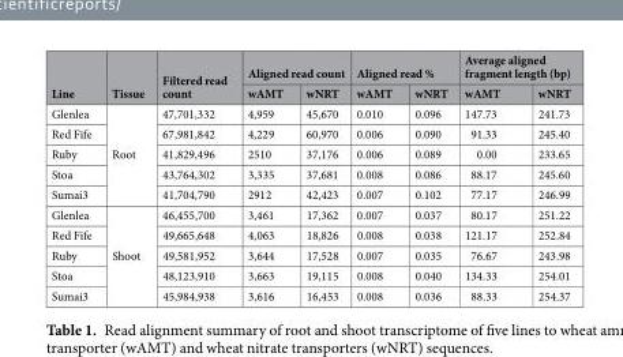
<table><thead><tr><td rowspan="2">Line</td><td rowspan="2">Tissue</td><td rowspan="2">Filtered read count</td><td colspan="2">Aligned read count</td><td colspan="2">Aligned read %</td><td colspan="2">Average aligned fragment length (bp)</td></tr><tr><td>wAMT</td><td>wNRT</td><td>wAMT</td><td>wNRT</td><td>wAMT</td><td>wNRT</td></tr></thead><tbody><tr><td>Glenlea</td><td rowspan="5">Root</td><td>47,701,332</td><td>4,959</td><td>45,670</td><td>0.010</td><td>0.096</td><td>147.73</td><td>241.73</td></tr><tr><td>Red Fife</td><td>67,981,842</td><td>4,229</td><td>60,970</td><td>0.006</td><td>0.090</td><td>91.33</td><td>245.40</td></tr><tr><td>Ruby</td><td>41,829,496</td><td>2510</td><td>37,176</td><td>0.006</td><td>0.089</td><td>0.00</td><td>233.65</td></tr><tr><td>Stoa</td><td>43,764,302</td><td>3,335</td><td>37,681</td><td>0.008</td><td>0.086</td><td>88.17</td><td>245.60</td></tr><tr><td>Sumai3</td><td>41,704,790</td><td>2912</td><td>42,423</td><td>0.007</td><td>0.102</td><td>77.17</td><td>246.99</td></tr><tr><td>Glenlea</td><td rowspan="5">Shoot</td><td>46,455,700</td><td>3,461</td><td>17,362</td><td>0.007</td><td>0.037</td><td>80.17</td><td>251.22</td></tr><tr><td>Red Fife</td><td>49,665,648</td><td>4,063</td><td>18,826</td><td>0.008</td><td>0.038</td><td>121.17</td><td>252.84</td></tr><tr><td>Ruby</td><td>49,581,952</td><td>3,644</td><td>17,528</td><td>0.007</td><td>0.035</td><td>76.67</td><td>243.98</td></tr><tr><td>Stoa</td><td>48,123,910</td><td>3,663</td><td>19,115</td><td>0.008</td><td>0.040</td><td>134.33</td><td>254.01</td></tr><tr><td>Sumai3</td><td>45,984,938</td><td>3,616</td><td>16,453</td><td>0.008</td><td>0.036</td><td>88.33</td><td>254.37</td></tr></tbody></table>